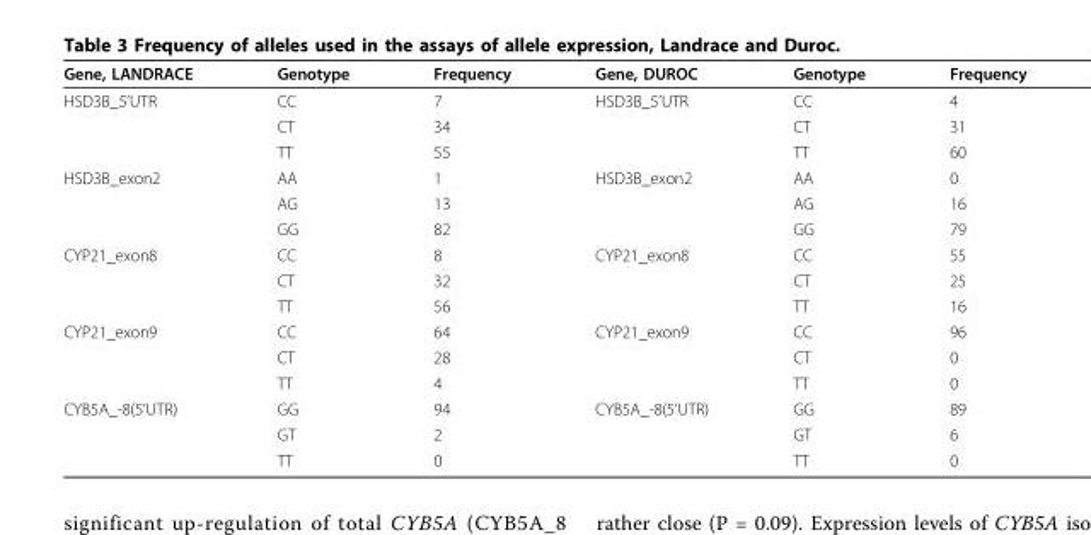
<table><thead><tr><td>Gene, LANDRACE</td><td>Genotype</td><td>Frequency</td><td>Gene, DUROC</td><td>Genotype</td><td>Frequency</td></tr></thead><tbody><tr><td rowspan="3">HSD3B_5’UTR</td><td>CC</td><td>7</td><td>HSD3B_5’UTR</td><td>CC</td><td>4</td></tr><tr><td>CT</td><td>34</td><td></td><td>CT</td><td>31</td></tr><tr><td>TT</td><td>55</td><td></td><td>TT</td><td>60</td></tr><tr><td rowspan="3">HSD3B_exon2</td><td>AA</td><td>1</td><td>HSD3B_exon2</td><td>AA</td><td>0</td></tr><tr><td>AG</td><td>13</td><td></td><td>AG</td><td>16</td></tr><tr><td>GG</td><td>82</td><td></td><td>GG</td><td>79</td></tr><tr><td rowspan="3">CYP21_exon8</td><td>CC</td><td>8</td><td>CYP21_exon8</td><td>CC</td><td>55</td></tr><tr><td>CT</td><td>32</td><td></td><td>CT</td><td>25</td></tr><tr><td>TT</td><td>56</td><td></td><td>TT</td><td>16</td></tr><tr><td rowspan="3">CYP21_exon9</td><td>CC</td><td>64</td><td>CYP21_exon9</td><td>CC</td><td>96</td></tr><tr><td>CT</td><td>28</td><td></td><td>CT</td><td>0</td></tr><tr><td>TT</td><td>4</td><td></td><td>TT</td><td>0</td></tr><tr><td rowspan="3">CYB5A_-8(5’UTR)</td><td>GG</td><td>94</td><td>CYB5A_-8(5’UTR)</td><td>GG</td><td>89</td></tr><tr><td>GT</td><td>2</td><td></td><td>GT</td><td>6</td></tr><tr><td>TT</td><td>0</td><td></td><td>TT</td><td>0</td></tr></tbody></table>